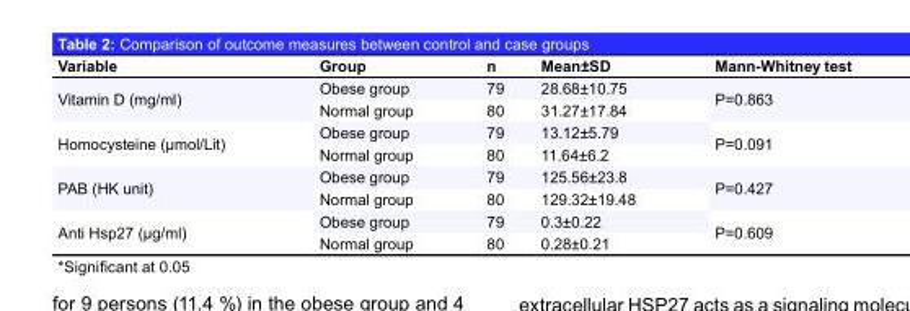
<table><thead><tr><td>Variable</td><td>Group</td><td>n</td><td>Mean±SD</td><td>Mann-Whitney test</td></tr></thead><tbody><tr><td rowspan="2">Vitamin D (mg/ml)</td><td>Obese group</td><td>79</td><td>28.68±10.75</td><td rowspan="2">P=0.863</td></tr><tr><td>Normal group</td><td>80</td><td>31.27±17.84</td></tr><tr><td rowspan="2">Homocysteine (µmol/Lit)</td><td>Obese group</td><td>79</td><td>13.12±5.79</td><td rowspan="2">P=0.091</td></tr><tr><td>Normal group</td><td>80</td><td>11.64±6.2</td></tr><tr><td rowspan="2">PAB (HK unit)</td><td>Obese group</td><td>79</td><td>125.56±23.8</td><td rowspan="2">P=0.427</td></tr><tr><td>Normal group</td><td>80</td><td>129.32±19.48</td></tr><tr><td rowspan="2">Anti Hsp27 (µg/ml)</td><td>Obese group</td><td>79</td><td>0.3±0.22</td><td rowspan="2">P=0.609</td></tr><tr><td>Normal group</td><td>80</td><td>0.28±0.21</td></tr></tbody></table>